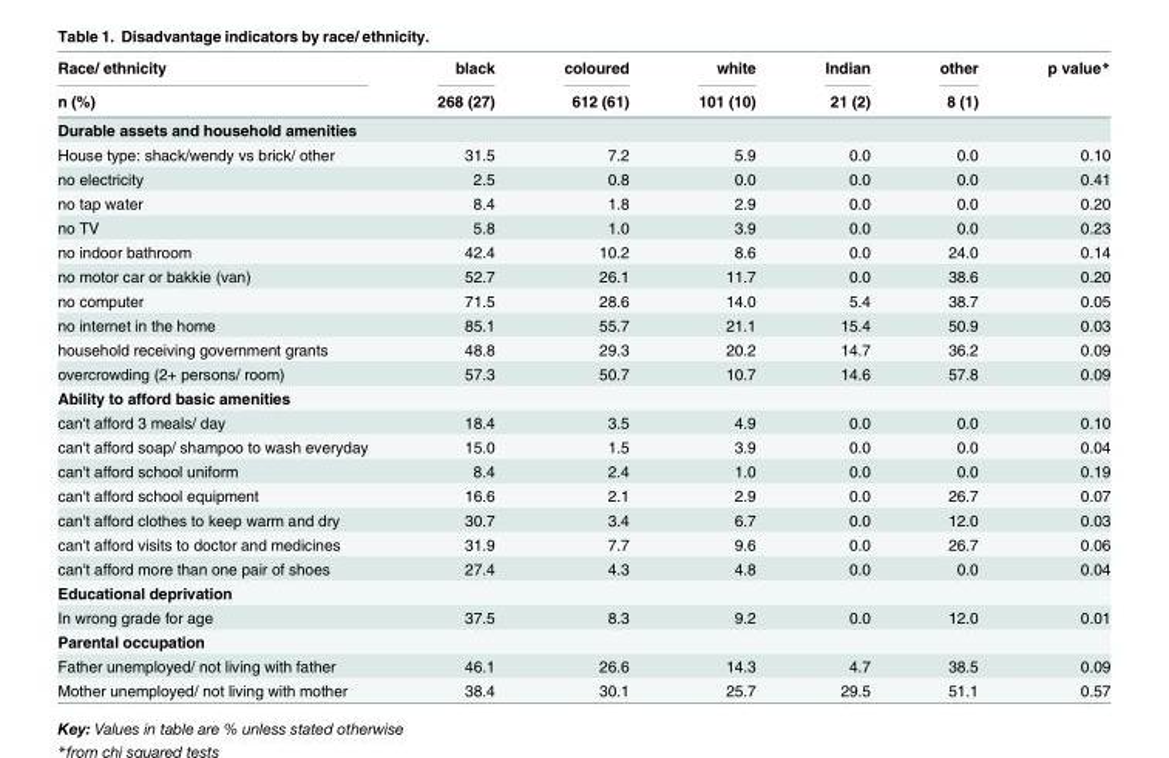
<table><thead><tr><td rowspan="2">Race/ ethnicity n (%)</td><td rowspan="2">black 268 (27)</td><td rowspan="2">coloured 612 (61)</td><td rowspan="2">white 101 (10)</td><td rowspan="2">Indian 21 (2)</td><td rowspan="2">other 8 (1)</td><td rowspan="2">p value*</td></tr><tr></tr></thead><tbody><tr><td colspan="7">Durable assets and household amenities</td></tr><tr><td>House type: shack/wendy vs brick/ other</td><td>31.5</td><td>7.2</td><td>5.9</td><td>0.0</td><td>0.0</td><td>0.10</td></tr><tr><td>no electricity</td><td>2.5</td><td>0.8</td><td>0.0</td><td>0.0</td><td>0.0</td><td>0.41</td></tr><tr><td>no tap water</td><td>8.4</td><td>1.8</td><td>2.9</td><td>0.0</td><td>0.0</td><td>0.20</td></tr><tr><td>no TV</td><td>5.8</td><td>1.0</td><td>3.9</td><td>0.0</td><td>0.0</td><td>0.23</td></tr><tr><td>no indoor bathroom</td><td>42.4</td><td>10.2</td><td>8.6</td><td>0.0</td><td>24.0</td><td>0.14</td></tr><tr><td>no motor car or bakkie (van)</td><td>52.7</td><td>26.1</td><td>11.7</td><td>0.0</td><td>38.6</td><td>0.20</td></tr><tr><td>no computer</td><td>71.5</td><td>28.6</td><td>14.0</td><td>5.4</td><td>38.7</td><td>0.05</td></tr><tr><td>no internet in the home</td><td>85.1</td><td>55.7</td><td>21.1</td><td>15.4</td><td>50.9</td><td>0.03</td></tr><tr><td>household receiving government grants</td><td>48.8</td><td>29.3</td><td>20.2</td><td>14.7</td><td>36.2</td><td>0.09</td></tr><tr><td>overcrowding (2+ persons/ room)</td><td>57.3</td><td>50.7</td><td>10.7</td><td>14.6</td><td>57.8</td><td>0.09</td></tr><tr><td colspan="7">Ability to afford basic amenities</td></tr><tr><td>can&#x27;t afford 3 meals/ day</td><td>18.4</td><td>3.5</td><td>4.9</td><td>0.0</td><td>0.0</td><td>0.10</td></tr><tr><td>can&#x27;t afford soap/ shampoo to wash everyday</td><td>15.0</td><td>1.5</td><td>3.9</td><td>0.0</td><td>0.0</td><td>0.04</td></tr><tr><td>can&#x27;t afford school uniform</td><td>8.4</td><td>2.4</td><td>1.0</td><td>0.0</td><td>0.0</td><td>0.19</td></tr><tr><td>can&#x27;t afford school equipment</td><td>16.6</td><td>2.1</td><td>2.9</td><td>0.0</td><td>26.7</td><td>0.07</td></tr><tr><td>can&#x27;t afford clothes to keep warm and dry</td><td>30.7</td><td>3.4</td><td>6.7</td><td>0.0</td><td>12.0</td><td>0.03</td></tr><tr><td>can&#x27;t afford visits to doctor and medicines</td><td>31.9</td><td>7.7</td><td>9.6</td><td>0.0</td><td>26.7</td><td>0.06</td></tr><tr><td>can&#x27;t afford more than one pair of shoes</td><td>27.4</td><td>4.3</td><td>4.8</td><td>0.0</td><td>0.0</td><td>0.04</td></tr><tr><td colspan="7">Educational deprivation</td></tr><tr><td>In wrong grade for age</td><td>37.5</td><td>8.3</td><td>9.2</td><td>0.0</td><td>12.0</td><td>0.01</td></tr><tr><td colspan="7">Parental occupation</td></tr><tr><td>Father unemployed/ not living with father</td><td>46.1</td><td>26.6</td><td>14.3</td><td>4.7</td><td>38.5</td><td>0.09</td></tr><tr><td>Mother unemployed/ not living with mother</td><td>38.4</td><td>30.1</td><td>25.7</td><td>29.5</td><td>51.1</td><td>0.57</td></tr></tbody></table>